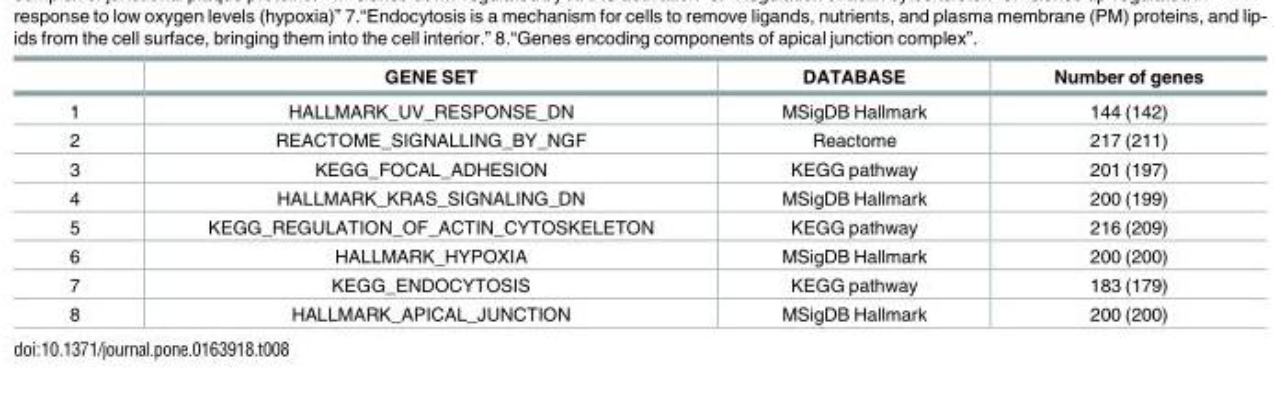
<table><thead><tr><td></td><td>GENE SET</td><td>DATABASE</td><td>Number of genes</td></tr></thead><tbody><tr><td>1</td><td>HALLMARK_UV_RESPONSE_DN</td><td>MSigDB Hallmark</td><td>144 (142)</td></tr><tr><td>2</td><td>REACTOME_SIGNALLING_BY_NGF</td><td>Reactome</td><td>217 (211)</td></tr><tr><td>3</td><td>KEGG_FOCAL_ADHESION</td><td>KEGG pathway</td><td>201 (197)</td></tr><tr><td>4</td><td>HALLMARK_KRAS_SIGNALING_DN</td><td>MSigDB Hallmark</td><td>200 (199)</td></tr><tr><td>5</td><td>KEGG_REGULATION_OF_ACTIN_CYTOSKELETON</td><td>KEGG pathway</td><td>216 (209)</td></tr><tr><td>6</td><td>HALLMARK_HYPOXIA</td><td>MSigDB Hallmark</td><td>200 (200)</td></tr><tr><td>7</td><td>KEGG_ENDOCYTOSIS</td><td>KEGG pathway</td><td>183 (179)</td></tr><tr><td>8</td><td>HALLMARK_APICAL_JUNCTION</td><td>MSigDB Hallmark</td><td>200 (200)</td></tr></tbody></table>